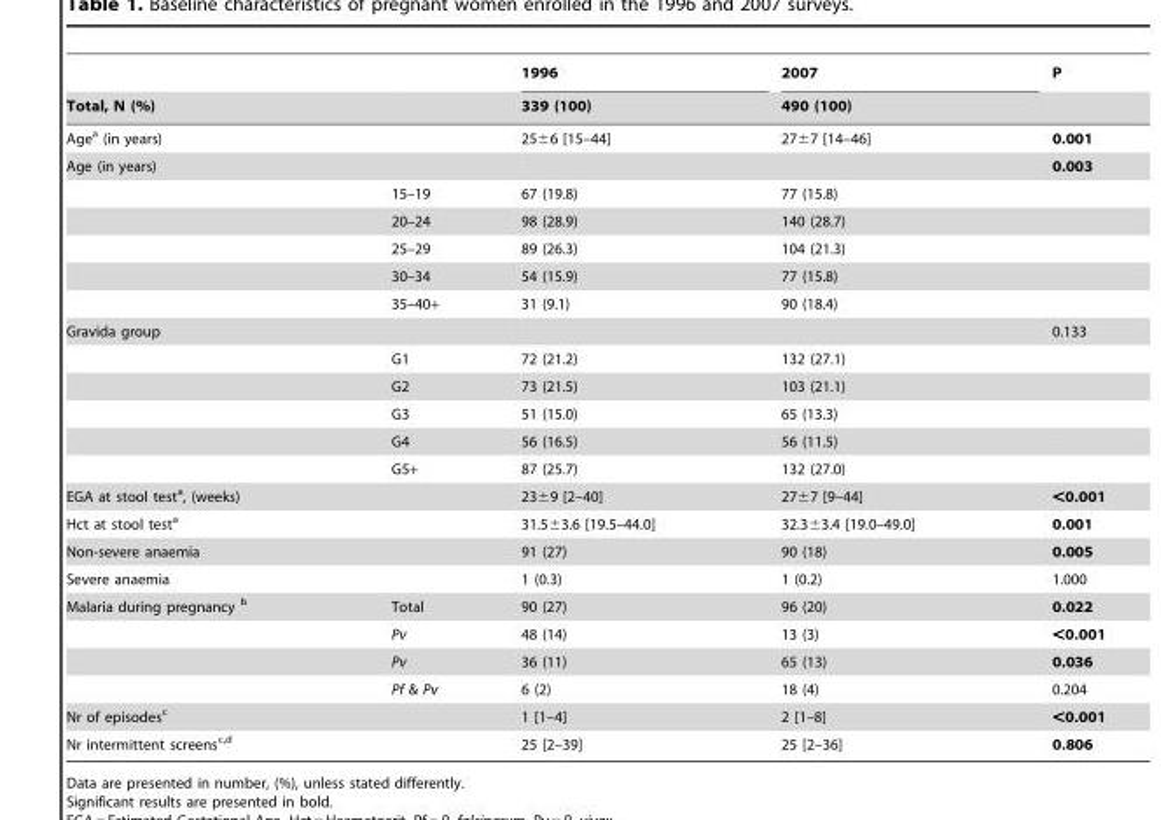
<table><thead><tr><td rowspan="2">Total, N (%)</td><td rowspan="2"></td><td rowspan="2">1996 339 (100)</td><td rowspan="2">2007 490 (100)</td><td rowspan="2">P</td></tr><tr></tr></thead><tbody><tr><td>Age<sup>a</sup> (in years)</td><td></td><td>25±6 [15–44]</td><td>27±7 [14–46]</td><td>0.001</td></tr><tr><td rowspan="6">Age (in years)</td><td></td><td></td><td></td><td>0.003</td></tr><tr><td>15–19</td><td>67 (19.8)</td><td>77 (15.8)</td><td></td></tr><tr><td>20–24</td><td>98 (28.9)</td><td>140 (28.7)</td><td></td></tr><tr><td>25–29</td><td>89 (26.3)</td><td>104 (21.3)</td><td></td></tr><tr><td>30–34</td><td>54 (15.9)</td><td>77 (15.8)</td><td></td></tr><tr><td>35–40+</td><td>31 (9.1)</td><td>90 (18.4)</td><td></td></tr><tr><td rowspan="6">Gravida group</td><td></td><td></td><td></td><td>0.133</td></tr><tr><td>G1</td><td>72 (21.2)</td><td>132 (27.1)</td><td></td></tr><tr><td>G2</td><td>73 (21.5)</td><td>103 (21.1)</td><td></td></tr><tr><td>G3</td><td>51 (15.0)</td><td>65 (13.3)</td><td></td></tr><tr><td>G4</td><td>56 (16.5)</td><td>56 (11.5)</td><td></td></tr><tr><td>G5+</td><td>87 (25.7)</td><td>132 (27.0)</td><td></td></tr><tr><td>EGA at stool test<sup>a</sup>, (weeks)</td><td></td><td>23±9 [2–40]</td><td>27±7 [9–44]</td><td>&lt;0.001</td></tr><tr><td>Hct at stool test<sup>a</sup></td><td></td><td>31.5±3.6 [19.5–44.0]</td><td>32.3±3.4 [19.0–49.0]</td><td>0.001</td></tr><tr><td>Non-severe anaemia</td><td></td><td>91 (27)</td><td>90 (18)</td><td>0.005</td></tr><tr><td>Severe anaemia</td><td></td><td>1 (0.3)</td><td>1 (0.2)</td><td>1.000</td></tr><tr><td rowspan="4">Malaria during pregnancy b</td><td>Total</td><td>90 (27)</td><td>96 (20)</td><td>0.022</td></tr><tr><td>Pv</td><td>48 (14)</td><td>13 (3)</td><td>&lt;0.001</td></tr><tr><td>Pv</td><td>36 (11)</td><td>65 (13)</td><td>0.036</td></tr><tr><td>Pf &amp; Pv</td><td>6 (2)</td><td>18 (4)</td><td>0.204</td></tr><tr><td>Nr of episodes<sup>c</sup></td><td></td><td>1 [1–4]</td><td>2 [1–8]</td><td>&lt;0.001</td></tr><tr><td>Nr intermittent screensc,d</td><td></td><td>25 [2–39]</td><td>25 [2–36]</td><td>0.806</td></tr></tbody></table>